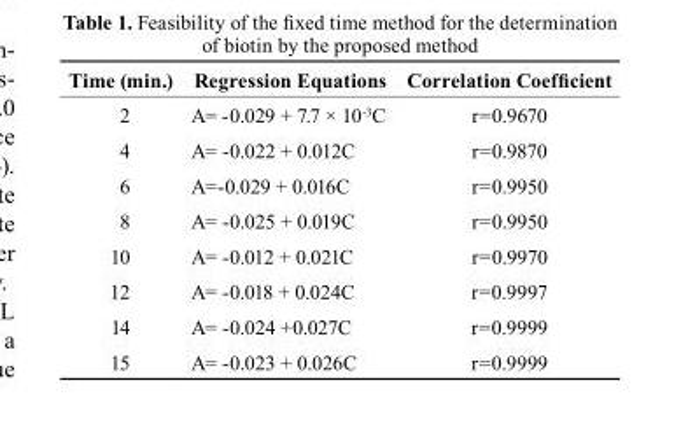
<table><thead><tr><td>Time (min.)</td><td>regression Equations</td><td>correlation coefficient</td></tr></thead><tbody><tr><td>2</td><td>A= -0.029 + 7.7 × 10<sup>-3</sup>C</td><td>r=0.9670</td></tr><tr><td>4</td><td>A= -0.022 + 0.012C</td><td>r=0.9870</td></tr><tr><td>6</td><td>A=-0.029 + 0.016C</td><td>r=0.9950</td></tr><tr><td>8</td><td>A= -0.025 + 0.019C</td><td>r=0.9950</td></tr><tr><td>10</td><td>A= -0.012 + 0.021C</td><td>r=0.9970</td></tr><tr><td>12</td><td>A= -0.018 + 0.024C</td><td>r=0.9997</td></tr><tr><td>14</td><td>A= -0.024 +0.027C</td><td>r=0.9999</td></tr><tr><td>15</td><td>A= -0.023 + 0.026C</td><td>r=0.9999</td></tr></tbody></table>